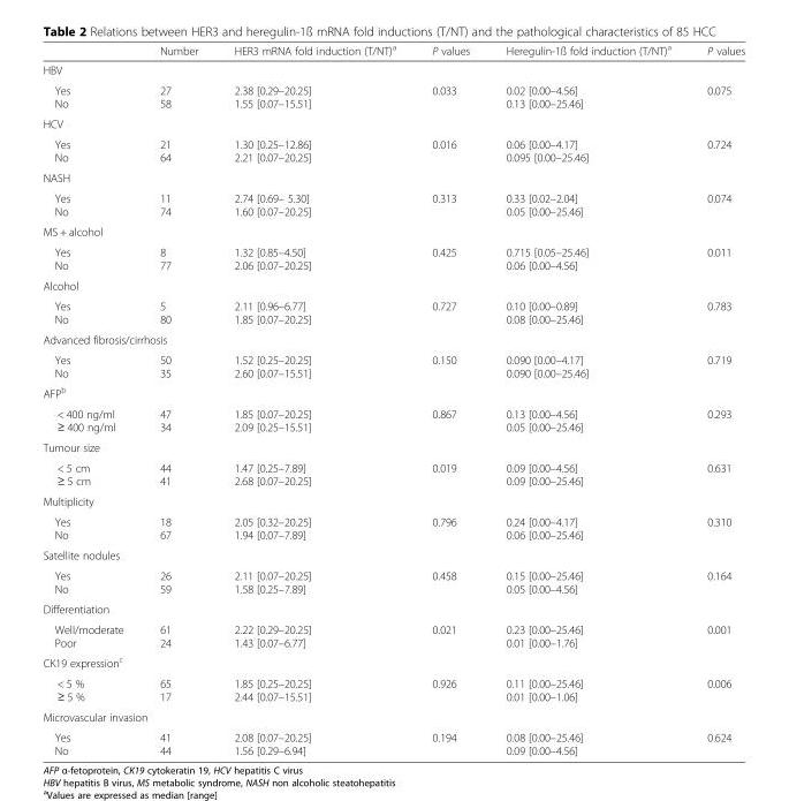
<table><thead><tr><td></td><td>Number</td><td>HER3 mRNA fold induction (T/NT)<sup>a</sup></td><td>P values</td><td>Heregulin-1ß fold induction (T/NT)<sup>a</sup></td><td>P values</td></tr></thead><tbody><tr><td colspan="6">HBV</td></tr><tr><td>Yes No</td><td>27 58</td><td>2.38 [0.29–20.25] 1.55 [0.07–15.51]</td><td>0.033</td><td>0.02 [0.00–4.56] 0.13 [0.00–25.46]</td><td>0.075</td></tr><tr><td colspan="6">HCV</td></tr><tr><td>Yes No</td><td>21 64</td><td>1.30 [0.25–12.86] 2.21 [0.07–20.25]</td><td>0.016</td><td>0.06 [0.00–4.17] 0.095 [0.00–25.46]</td><td>0.724</td></tr><tr><td colspan="6">NASH</td></tr><tr><td>Yes No</td><td>11 74</td><td>2.74 [0.69– 5.30] 1.60 [0.07–20.25]</td><td>0.313</td><td>0.33 [0.02–2.04] 0.05 [0.00–25.46]</td><td>0.074</td></tr><tr><td colspan="6">MS + alcohol</td></tr><tr><td>Yes No</td><td>8 77</td><td>1.32 [0.85–4.50] 2.06 [0.07–20.25]</td><td>0.425</td><td>0.715 [0.05–25.46] 0.06 [0.00–4.56]</td><td>0.011</td></tr><tr><td colspan="6">Alcohol</td></tr><tr><td>Yes No</td><td>5 80</td><td>2.11 [0.96–6.77] 1.85 [0.07–20.25]</td><td>0.727</td><td>0.10 [0.00–0.89] 0.08 [0.00–25.46]</td><td>0.783</td></tr><tr><td colspan="6">Advanced fibrosis/cirrhosis</td></tr><tr><td>Yes No</td><td>50 35</td><td>1.52 [0.25–20.25] 2.60 [0.07–15.51]</td><td>0.150</td><td>0.090 [0.00–4.17] 0.090 [0.00–25.46]</td><td>0.719</td></tr><tr><td colspan="6">AFP<sup>b</sup></td></tr><tr><td>&lt; 400 ng/ml ≥ 400 ng/ml</td><td>47 34</td><td>1.85 [0.07–20.25] 2.09 [0.25–15.51]</td><td>0.867</td><td>0.13 [0.00–4.56] 0.05 [0.00–25.46]</td><td>0.293</td></tr><tr><td colspan="6">Tumour size</td></tr><tr><td>&lt; 5 cm ≥ 5 cm</td><td>44 41</td><td>1.47 [0.25–7.89] 2.68 [0.07–20.25]</td><td>0.019</td><td>0.09 [0.00–4.56] 0.09 [0.00–25.46]</td><td>0.631</td></tr><tr><td colspan="6">Multiplicity</td></tr><tr><td>Yes No</td><td>18 67</td><td>2.05 [0.32–20.25] 1.94 [0.07–7.89]</td><td>0.796</td><td>0.24 [0.00–4.17] 0.06 [0.00–25.46]</td><td>0.310</td></tr><tr><td colspan="6">Satellite nodules</td></tr><tr><td>Yes No</td><td>26 59</td><td>2.11 [0.07–20.25] 1.58 [0.25–7.89]</td><td>0.458</td><td>0.15 [0.00–25.46] 0.05 [0.00–4.56]</td><td>0.164</td></tr><tr><td colspan="6">Differentiation</td></tr><tr><td>Well/moderate Poor</td><td>61 24</td><td>2.22 [0.29–20.25] 1.43 [0.07–6.77]</td><td>0.021</td><td>0.23 [0.00–25.46] 0.01 [0.00–1.76]</td><td>0.001</td></tr><tr><td colspan="6">CK19 expression<sup>c</sup></td></tr><tr><td>&lt; 5 % ≥ 5 %</td><td>65 17</td><td>1.85 [0.25–20.25] 2.44 [0.07–15.51]</td><td>0.926</td><td>0.11 [0.00–25.46] 0.01 [0.00–1.06]</td><td>0.006</td></tr><tr><td colspan="6">Microvascular invasion</td></tr><tr><td>Yes No</td><td>41 44</td><td>2.08 [0.07–20.25] 1.56 [0.29–6.94]</td><td>0.194</td><td>0.08 [0.00–25.46] 0.09 [0.00–4.56]</td><td>0.624</td></tr></tbody></table>